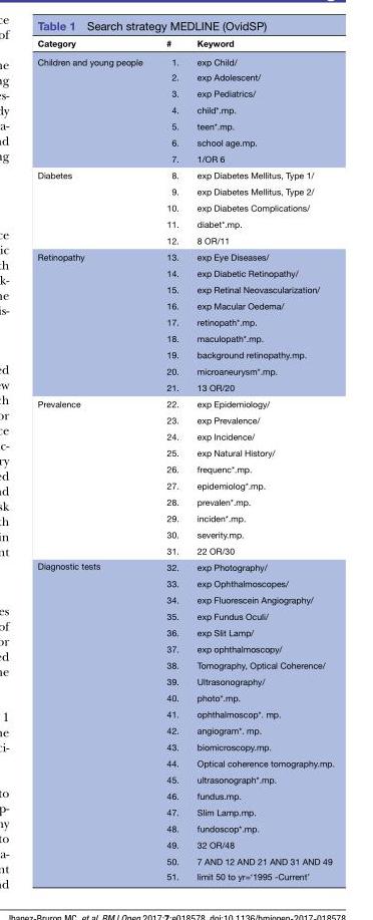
<table><thead><tr><td>Category</td><td>#</td><td>Keyword</td></tr></thead><tbody><tr><td rowspan="7">Children and young people</td><td>1.</td><td>exp Child/</td></tr><tr><td>2.</td><td>exp Adolescent/</td></tr><tr><td>3.</td><td>exp Pediatrics/</td></tr><tr><td>4.</td><td>child*.mp.</td></tr><tr><td>5.</td><td>teen*.mp.</td></tr><tr><td>6.</td><td>school age.mp.</td></tr><tr><td>7.</td><td>1/OR 6</td></tr><tr><td rowspan="5">Diabetes</td><td>8.</td><td>exp Diabetes Mellitus, Type 1/</td></tr><tr><td>9.</td><td>exp Diabetes Mellitus, Type 2/</td></tr><tr><td>10.</td><td>exp Diabetes Complications/</td></tr><tr><td>11.</td><td>diabet*.mp.</td></tr><tr><td>12.</td><td>8 OR/11</td></tr><tr><td rowspan="9">Retinopathy</td><td>13.</td><td>exp Eye Diseases/</td></tr><tr><td>14.</td><td>exp Diabetic Retinopathy/</td></tr><tr><td>15.</td><td>exp Retinal Neovascularization/</td></tr><tr><td>16.</td><td>exp Macular Oedema/</td></tr><tr><td>17.</td><td>retinopath*.mp.</td></tr><tr><td>18.</td><td>maculopath*.mp.</td></tr><tr><td>19.</td><td>background retinopathy.mp.</td></tr><tr><td>20.</td><td>microaneurysm*.mp.</td></tr><tr><td>21.</td><td>13 OR/20</td></tr><tr><td rowspan="10">Prevalence</td><td>22.</td><td>exp Epidemiology/</td></tr><tr><td>23.</td><td>exp Prevalence/</td></tr><tr><td>24.</td><td>exp Incidence/</td></tr><tr><td>25.</td><td>exp Natural History/</td></tr><tr><td>26.</td><td>frequenc*.mp.</td></tr><tr><td>27.</td><td>epidemiolog*.mp.</td></tr><tr><td>28.</td><td>prevalen*.mp.</td></tr><tr><td>29.</td><td>inciden*.mp.</td></tr><tr><td>30.</td><td>severity.mp.</td></tr><tr><td>31.</td><td>22 OR/30</td></tr><tr><td rowspan="20">Diagnostic tests</td><td>32.</td><td>exp Photography/</td></tr><tr><td>33.</td><td>exp Ophthalmoscopes/</td></tr><tr><td>34.</td><td>exp Fluorescein Angiography/</td></tr><tr><td>35.</td><td>exp Fundus Oculi/</td></tr><tr><td>36.</td><td>exp Slit Lamp/</td></tr><tr><td>37.</td><td>exp ophthalmoscopy/</td></tr><tr><td>38.</td><td>Tomography, Optical Coherence/</td></tr><tr><td>39.</td><td>Ultrasonography/</td></tr><tr><td>40.</td><td>photo*.mp.</td></tr><tr><td>41.</td><td>ophthalmoscop*. mp.</td></tr><tr><td>42.</td><td>angiogram*. mp.</td></tr><tr><td>43.</td><td>biomicroscopy.mp.</td></tr><tr><td>44.</td><td>Optical coherence tomography.mp.</td></tr><tr><td>45.</td><td>ultrasonograph*.mp.</td></tr><tr><td>46.</td><td>fundus.mp.</td></tr><tr><td>47.</td><td>Slim Lamp.mp.</td></tr><tr><td>48.</td><td>fundoscop*.mp.</td></tr><tr><td>49.</td><td>32 OR/48</td></tr><tr><td>50.</td><td>7 AND 12 AND 21 AND 31 AND 49</td></tr><tr><td>51.</td><td>limit 50 to yr=‘1995 -Current’</td></tr></tbody></table>